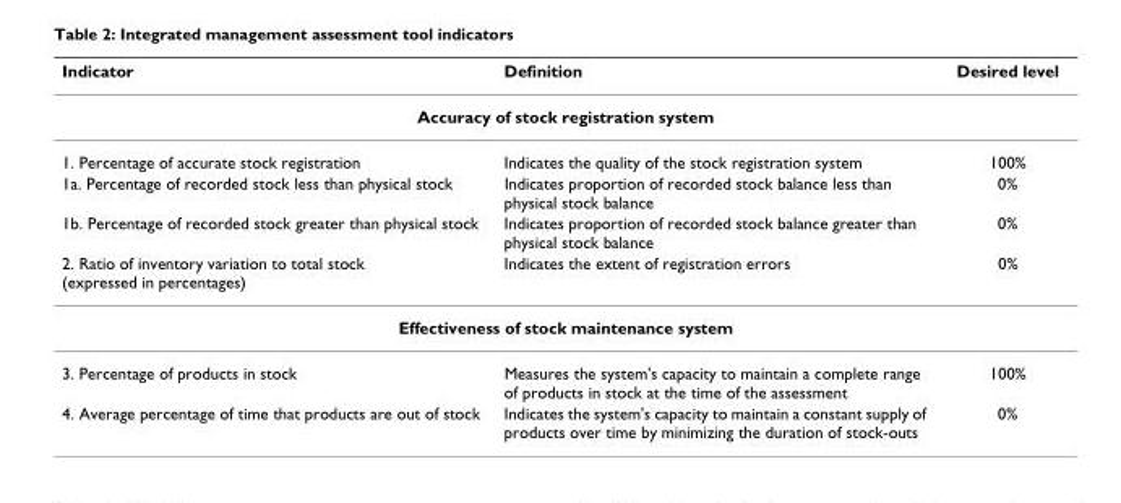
<table><thead><tr><td>Indicator</td><td>Definition</td><td>Desired level</td></tr></thead><tbody><tr><td colspan="3">Accuracy of stock registration system</td></tr><tr><td>1. Percentage of accurate stock registration</td><td>Indicates the quality of the stock registration system</td><td>100%</td></tr><tr><td>1a. Percentage of recorded stock less than physical stock</td><td>Indicates proportion of recorded stock balance less than physical stock balance</td><td>0%</td></tr><tr><td>1b. Percentage of recorded stock greater than physical stock</td><td>Indicates proportion of recorded stock balance greater than physical stock balance</td><td>0%</td></tr><tr><td>2. Ratio of inventory variation to total stock (expressed in percentages)</td><td>Indicates the extent of registration errors</td><td>0%</td></tr><tr><td colspan="3">Effectiveness of stock maintenance system</td></tr><tr><td>3. Percentage of products in stock</td><td>Measures the system&#x27;s capacity to maintain a complete range of products in stock at the time of the assessment</td><td>100%</td></tr><tr><td>4. Average percentage of time that products are out of stock</td><td>Indicates the system&#x27;s capacity to maintain a constant supply of products over time by minimizing the duration of stock-outs</td><td>0%</td></tr></tbody></table>